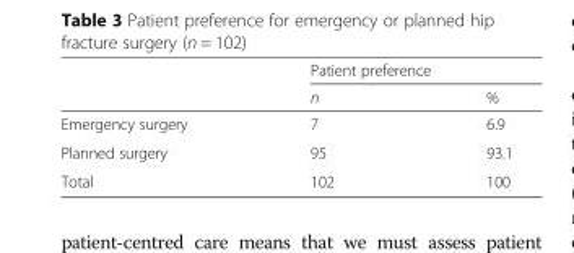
<table><thead><tr><td rowspan="2"></td><td colspan="2">Patient preference</td></tr><tr><td>n</td><td>%</td></tr></thead><tbody><tr><td>Emergency surgery</td><td>7</td><td>6.9</td></tr><tr><td>Planned surgery</td><td>95</td><td>93.1</td></tr><tr><td>Total</td><td>102</td><td>100</td></tr></tbody></table>